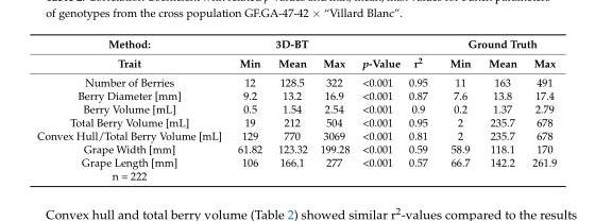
<table><thead><tr><td rowspan="2">Method: Trait</td><td colspan="3">3D-BT</td><td rowspan="2">p-Value</td><td rowspan="2">r<sup>2</sup></td><td colspan="3">Ground Truth</td></tr><tr><td>Min</td><td>Mean</td><td>Max</td><td>Min</td><td>Mean</td><td>Max</td></tr></thead><tbody><tr><td>Number of Berries</td><td>12</td><td>128.5</td><td>322</td><td>&lt;0.001</td><td>0.95</td><td>11</td><td>163</td><td>491</td></tr><tr><td>Berry Diameter [mm]</td><td>9.2</td><td>13.2</td><td>16.9</td><td>&lt;0.001</td><td>0.87</td><td>7.6</td><td>13.8</td><td>17.4</td></tr><tr><td>Berry Volume [mL]</td><td>0.5</td><td>1.54</td><td>2.54</td><td>&lt;0.001</td><td>0.9</td><td>0.2</td><td>1.37</td><td>2.79</td></tr><tr><td>Total Berry Volume [mL]</td><td>19</td><td>212</td><td>504</td><td>&lt;0.001</td><td>0.95</td><td>2</td><td>235.7</td><td>678</td></tr><tr><td>Convex Hull/Total Berry Volume [mL]</td><td>129</td><td>770</td><td>3069</td><td>&lt;0.001</td><td>0.81</td><td>2</td><td>235.7</td><td>678</td></tr><tr><td>Grape Width [mm]</td><td>61.82</td><td>123.32</td><td>199.28</td><td>&lt;0.001</td><td>0.59</td><td>58.9</td><td>118.1</td><td>170</td></tr><tr><td>Grape Length [mm]</td><td>106</td><td>166.1</td><td>277</td><td>&lt;0.001</td><td>0.57</td><td>66.7</td><td>142.2</td><td>261.9</td></tr><tr><td>n = 222</td><td></td><td></td><td></td><td></td><td></td><td></td><td></td><td></td></tr></tbody></table>